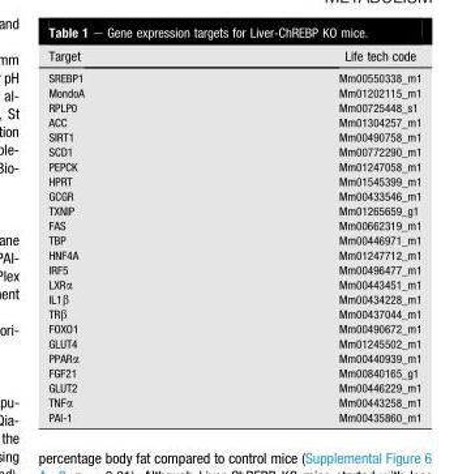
<table><thead><tr><td>Target</td><td>Life tech code</td></tr></thead><tbody><tr><td>SREBP1</td><td>Mm00550338_m1</td></tr><tr><td>MondoA</td><td>Mm01202115_m1</td></tr><tr><td>RPLP0</td><td>Mm00725448_s1</td></tr><tr><td>ACC</td><td>Mm01304257_m1</td></tr><tr><td>SIRT1</td><td>Mm00490758_m1</td></tr><tr><td>SCD1</td><td>Mm00772290_m1</td></tr><tr><td>PEPCK</td><td>Mm01247058_m1</td></tr><tr><td>HPRT</td><td>Mm01545399_m1</td></tr><tr><td>GCGR</td><td>Mm00433546_m1</td></tr><tr><td>TXNIP</td><td>Mm01265659_g1</td></tr><tr><td>FAS</td><td>Mm00662319_m1</td></tr><tr><td>TBP</td><td>Mm00446971_m1</td></tr><tr><td>HNF4A</td><td>Mm01247712_m1</td></tr><tr><td>IRF5</td><td>Mm00496477_m1</td></tr><tr><td>LXRα</td><td>Mm00443451_m1</td></tr><tr><td>IL1β</td><td>Mm00434228_m1</td></tr><tr><td>TRβ</td><td>Mm00437044_m1</td></tr><tr><td>FOXO1</td><td>Mm00490672_m1</td></tr><tr><td>GLUT4</td><td>Mm01245502_m1</td></tr><tr><td>PPARα</td><td>Mm00440939_m1</td></tr><tr><td>FGF21</td><td>Mm00840165_g1</td></tr><tr><td>GLUT2</td><td>Mm00446229_m1</td></tr><tr><td>TNFα</td><td>Mm00443258_m1</td></tr><tr><td>PAI-1</td><td>Mm00435860_m1</td></tr></tbody></table>